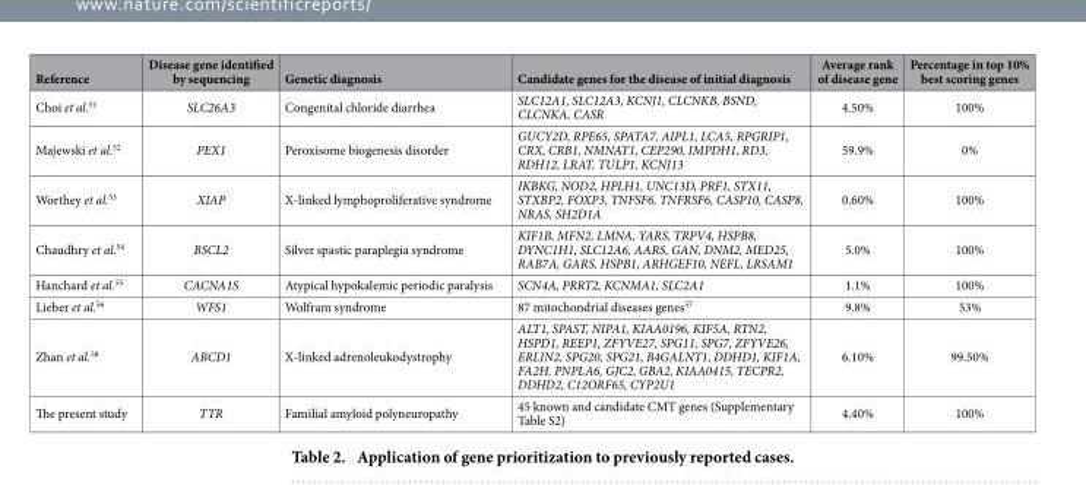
<table><thead><tr><td>Reference</td><td>Disease gene identified by sequencing</td><td>Genetic diagnosis</td><td>Candidate genes for the disease of initial diagnosis</td><td>Average rank of disease gene</td><td>Percentage in top 10% best scoring genes</td></tr></thead><tbody><tr><td>Choi et al.<sup>51</sup></td><td>SLC26A3</td><td>Congenital chloride diarrhea</td><td>SLC12A1, SLC12A3, KCNJ1, CLCNKB, BSND, CLCNKA, CASR</td><td>4.50%</td><td>100%</td></tr><tr><td>Majewski et al.<sup>52</sup></td><td>PEX1</td><td>Peroxisome biogenesis disorder</td><td>GUCY2D, RPE65, SPATA7, AIPL1, LCA5, RPGRIP1, CRX, CRB1, NMNAT1, CEP290, IMPDH1, RD3, RDH12, LRAT, TULP1, KCNJ13</td><td>59.9%</td><td>0%</td></tr><tr><td>Worthey et al.<sup>53</sup></td><td>XIAP</td><td>X-linked lymphoproliferative syndrome</td><td>IKBKG, NOD2, HPLH1, UNC13D, PRF1, STX11, STXBP2, FOXP3, TNFSF6, TNFRSF6, CASP10, CASP8, NRAS, SH2D1A</td><td>0.60%</td><td>100%</td></tr><tr><td>Chaudhry et al.<sup>54</sup></td><td>BSCL2</td><td>Silver spastic paraplegia syndrome</td><td>KIF1B, MFN2, LMNA, YARS, TRPV4, HSPB8, DYNC1H1, SLC12A6, AARS, GAN, DNM2, MED25, RAB7A, GARS, HSPB1, ARHGEF10, NEFL, LRSAM1</td><td>5.0%</td><td>100%</td></tr><tr><td>Hanchard et al.<sup>55</sup></td><td>CACNA1S</td><td>Atypical hypokalemic periodic paralysis</td><td>SCN4A, PRRT2, KCNMA1, SLC2A1</td><td>1.1%</td><td>100%</td></tr><tr><td>Lieber et al.<sup>56</sup></td><td>WFS1</td><td>Wolfram syndrome</td><td>87 mitochondrial diseases genes<sup>57</sup></td><td>9.8%</td><td>53%</td></tr><tr><td>Zhan et al.<sup>58</sup></td><td>ABCD1</td><td>X-linked adrenoleukodystrophy</td><td>ALT1, SPAST, NIPA1, KIAA0196, KIF5A, RTN2, HSPD1, REEP1, ZFYVE27, SPG11, SPG7, ZFYVE26, ERLIN2, SPG20, SPG21, B4GALNT1, DDHD1, KIF1A, FA2H, PNPLA6, GJC2, GBA2, KIAA0415, TECPR2, DDHD2, C12ORF65, CYP2U1</td><td>6.10%</td><td>99.50%</td></tr><tr><td>The present study</td><td>TTR</td><td>Familial amyloid polyneuropathy</td><td>45 known and candidate CMT genes (Supplementary Table S2)</td><td>4.40%</td><td>100%</td></tr></tbody></table>